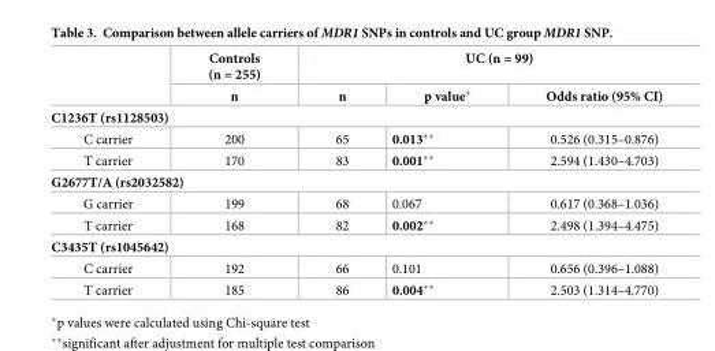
<table><thead><tr><td rowspan="2"></td><td rowspan="2">Controls (n = 255) n</td><td colspan="3">UC (n = 99)</td></tr><tr><td>n</td><td>p value*</td><td>Odds ratio (95% CI)</td></tr></thead><tbody><tr><td colspan="5">C1236T (rs1128503)</td></tr><tr><td>C carrier</td><td>200</td><td>65</td><td>0.013**</td><td>0.526 (0.315–0.876)</td></tr><tr><td>T carrier</td><td>170</td><td>83</td><td>0.001**</td><td>2.594 (1.430–4.703)</td></tr><tr><td colspan="5">G2677T/A (rs2032582)</td></tr><tr><td>G carrier</td><td>199</td><td>68</td><td>0.067</td><td>0.617 (0.368–1.036)</td></tr><tr><td>T carrier</td><td>168</td><td>82</td><td>0.002**</td><td>2.498 (1.394–4.475)</td></tr><tr><td colspan="5">C3435T (rs1045642)</td></tr><tr><td>C carrier</td><td>192</td><td>66</td><td>0.101</td><td>0.656 (0.396–1.088)</td></tr><tr><td>T carrier</td><td>185</td><td>86</td><td>0.004**</td><td>2.503 (1.314–4.770)</td></tr></tbody></table>